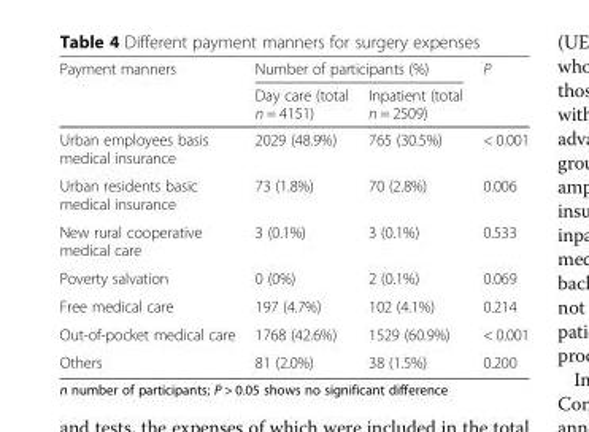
<table><thead><tr><td rowspan="2">Payment manners</td><td colspan="2">Number of participants (%)</td><td rowspan="2">P</td></tr><tr><td>Day care (total n = 4151)</td><td>Inpatient (total n = 2509)</td></tr></thead><tbody><tr><td>Urban employees basis medical insurance</td><td>2029 (48.9%)</td><td>765 (30.5%)</td><td>&lt; 0.001</td></tr><tr><td>Urban residents basic medical insurance</td><td>73 (1.8%)</td><td>70 (2.8%)</td><td>0.006</td></tr><tr><td>New rural cooperative medical care</td><td>3 (0.1%)</td><td>3 (0.1%)</td><td>0.533</td></tr><tr><td>Poverty salvation</td><td>0 (0%)</td><td>2 (0.1%)</td><td>0.069</td></tr><tr><td>Free medical care</td><td>197 (4.7%)</td><td>102 (4.1%)</td><td>0.214</td></tr><tr><td>Out-of-pocket medical care</td><td>1768 (42.6%)</td><td>1529 (60.9%)</td><td>&lt; 0.001</td></tr><tr><td>Others</td><td>81 (2.0%)</td><td>38 (1.5%)</td><td>0.200</td></tr></tbody></table>